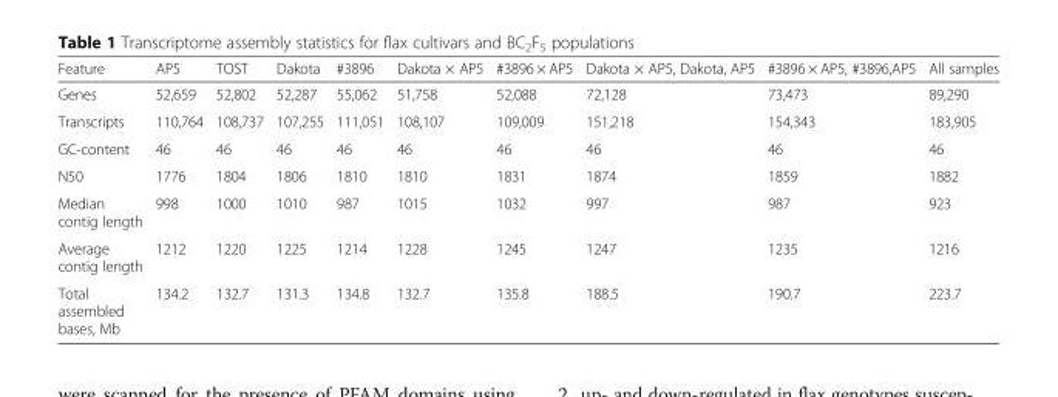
<table><thead><tr><td>Feature</td><td>АР5</td><td>TOST</td><td>Dakota</td><td>#3896</td><td>Dakota × АР5</td><td>#3896 × АР5</td><td>Dakota × АР5, Dakota, АР5</td><td>#3896 × АР5, #3896,АР5</td><td>All samples</td></tr></thead><tbody><tr><td>Genes</td><td>52,659</td><td>52,802</td><td>52,287</td><td>55,062</td><td>51,758</td><td>52,088</td><td>72,128</td><td>73,473</td><td>89,290</td></tr><tr><td>Transcripts</td><td>110,764</td><td>108,737</td><td>107,255</td><td>111,051</td><td>108,107</td><td>109,009</td><td>151,218</td><td>154,343</td><td>183,905</td></tr><tr><td>GC-content</td><td>46</td><td>46</td><td>46</td><td>46</td><td>46</td><td>46</td><td>46</td><td>46</td><td>46</td></tr><tr><td>N50</td><td>1776</td><td>1804</td><td>1806</td><td>1810</td><td>1810</td><td>1831</td><td>1874</td><td>1859</td><td>1882</td></tr><tr><td>Median contig length</td><td>998</td><td>1000</td><td>1010</td><td>987</td><td>1015</td><td>1032</td><td>997</td><td>987</td><td>923</td></tr><tr><td>Average contig length</td><td>1212</td><td>1220</td><td>1225</td><td>1214</td><td>1228</td><td>1245</td><td>1247</td><td>1235</td><td>1216</td></tr><tr><td>Total assembled bases, Mb</td><td>134.2</td><td>132.7</td><td>131.3</td><td>134.8</td><td>132.7</td><td>135.8</td><td>188.5</td><td>190.7</td><td>223.7</td></tr></tbody></table>